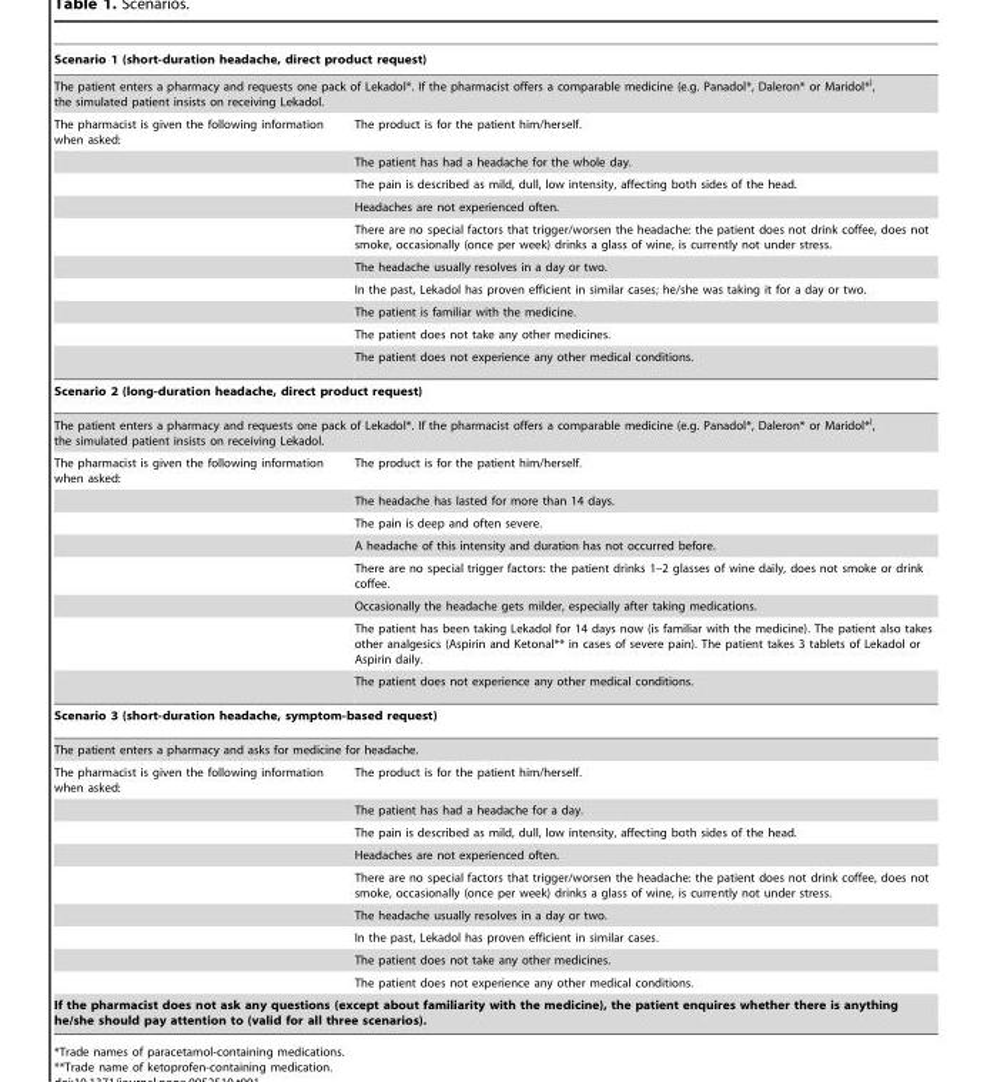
<table><thead><tr><td rowspan="2" colspan="2">Scenario 1 (short-duration headache, direct product request) The patient enters a pharmacy and requests one pack of Lekadol*. If the pharmacist offers a comparable medicine (e.g. Panadol*, Daleron* or Maridol*<sup>)</sup>, the simulated patient insists on receiving Lekadol.</td></tr><tr></tr><tr><td>The pharmacist is given the following information when asked:</td><td>The product is for the patient him/herself.</td></tr></thead><tbody><tr><td></td><td>The patient has had a headache for the whole day.</td></tr><tr><td></td><td>The pain is described as mild, dull, low intensity, affecting both sides of the head.</td></tr><tr><td></td><td>Headaches are not experienced often.</td></tr><tr><td></td><td>There are no special factors that trigger/worsen the headache: the patient does not drink coffee, does not smoke, occasionally (once per week) drinks a glass of wine, is currently not under stress.</td></tr><tr><td></td><td>The headache usually resolves in a day or two.</td></tr><tr><td></td><td>In the past, Lekadol has proven efficient in similar cases; he/she was taking it for a day or two.</td></tr><tr><td></td><td>The patient is familiar with the medicine.</td></tr><tr><td></td><td>The patient does not take any other medicines.</td></tr><tr><td></td><td>The patient does not experience any other medical conditions.</td></tr><tr><td colspan="2">Scenario 2 (long-duration headache, direct product request)</td></tr><tr><td colspan="2">The patient enters a pharmacy and requests one pack of Lekadol*. If the pharmacist offers a comparable medicine (e.g. Panadol*, Daleron* or Maridol*<sup>)</sup>, the simulated patient insists on receiving Lekadol.</td></tr><tr><td rowspan="8">The pharmacist is given the following information when asked:</td><td>The product is for the patient him/herself.</td></tr><tr><td>The headache has lasted for more than 14 days.</td></tr><tr><td>The pain is deep and often severe.</td></tr><tr><td>A headache of this intensity and duration has not occurred before.</td></tr><tr><td>There are no special trigger factors: the patient drinks 1–2 glasses of wine daily, does not smoke or drink coffee.</td></tr><tr><td>Occasionally the headache gets milder, especially after taking medications.</td></tr><tr><td>The patient has been taking Lekadol for 14 days now (is familiar with the medicine). The patient also takes other analgesics (Aspirin and Ketonal** in cases of severe pain). The patient takes 3 tablets of Lekadol or Aspirin daily.</td></tr><tr><td>The patient does not experience any other medical conditions.</td></tr><tr><td colspan="2">Scenario 3 (short-duration headache, symptom-based request)</td></tr><tr><td colspan="2">The patient enters a pharmacy and asks for medicine for headache.</td></tr><tr><td rowspan="9">The pharmacist is given the following information when asked:</td><td>The product is for the patient him/herself.</td></tr><tr><td>The patient has had a headache for a day.</td></tr><tr><td>The pain is described as mild, dull, low intensity, affecting both sides of the head.</td></tr><tr><td>Headaches are not experienced often.</td></tr><tr><td>There are no special factors that trigger/worsen the headache: the patient does not drink coffee, does not smoke, occasionally (once per week) drinks a glass of wine, is currently not under stress.</td></tr><tr><td>The headache usually resolves in a day or two.</td></tr><tr><td>In the past, Lekadol has proven efficient in similar cases.</td></tr><tr><td>The patient does not take any other medicines.</td></tr><tr><td>The patient does not experience any other medical conditions.</td></tr><tr><td colspan="2">If the pharmacist does not ask any questions (except about familiarity with the medicine), the patient enquires whether there is anything he/she should pay attention to (valid for all three scenarios).</td></tr></tbody></table>